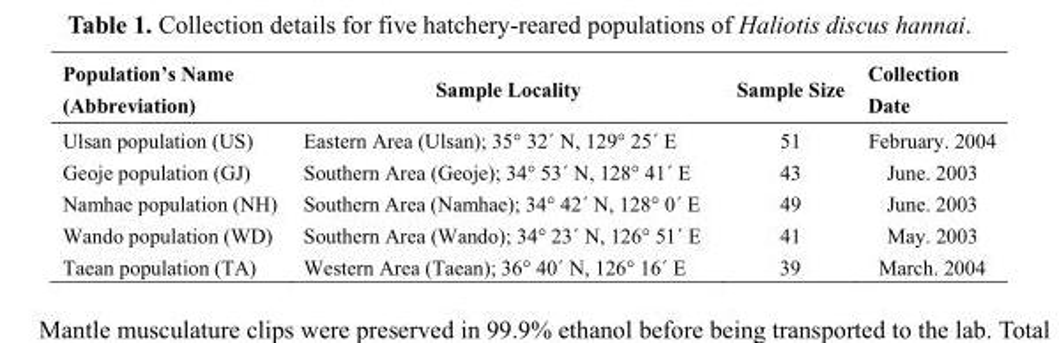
<table><thead><tr><td>Population’s Name (Abbreviation)</td><td>Sample Locality</td><td>Sample Size</td><td>Collection Date</td></tr></thead><tbody><tr><td>Ulsan population (US)</td><td>Eastern Area (Ulsan); 35° 32´ N, 129° 25´ E</td><td>51</td><td>February. 2004</td></tr><tr><td>Geoje population (GJ)</td><td>Southern Area (Geoje); 34° 53´ N, 128° 41´ E</td><td>43</td><td>June. 2003</td></tr><tr><td>Namhae population (NH)</td><td>Southern Area (Namhae); 34° 42´ N, 128° 0´ E</td><td>49</td><td>June. 2003</td></tr><tr><td>Wando population (WD)</td><td>Southern Area (Wando); 34° 23´ N, 126° 51´ E</td><td>41</td><td>May. 2003</td></tr><tr><td>Taean population (TA)</td><td>Western Area (Taean); 36° 40´ N, 126° 16´ E</td><td>39</td><td>March. 2004</td></tr></tbody></table>